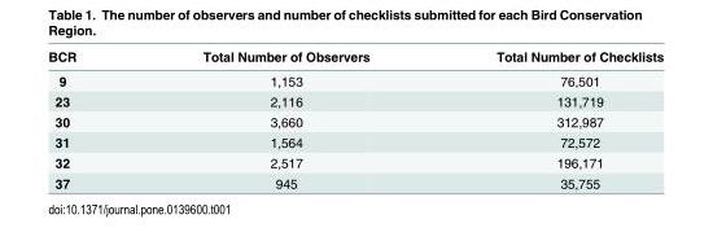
<table><thead><tr><td>BCR</td><td>Total Number of Observers</td><td>Total Number of Checklists</td></tr></thead><tbody><tr><td>9</td><td>1,153</td><td>76,501</td></tr><tr><td>23</td><td>2,116</td><td>131,719</td></tr><tr><td>30</td><td>3,660</td><td>312,987</td></tr><tr><td>31</td><td>1,564</td><td>72,572</td></tr><tr><td>32</td><td>2,517</td><td>196,171</td></tr><tr><td>37</td><td>945</td><td>35,755</td></tr></tbody></table>